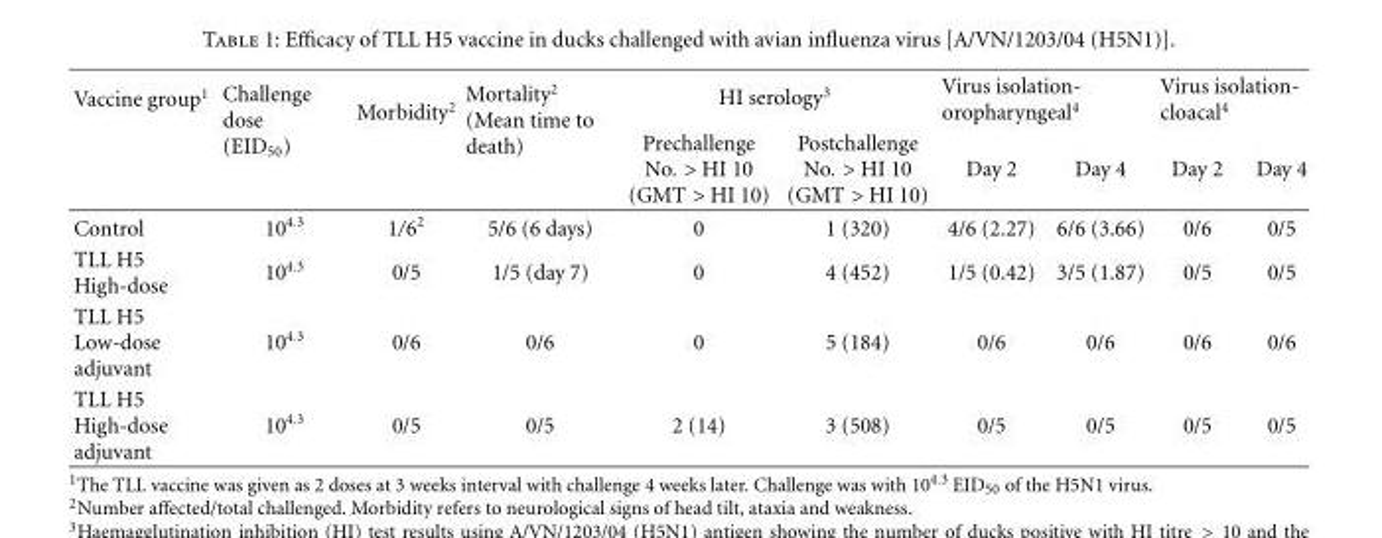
<table><thead><tr><td rowspan="2">Vaccine group<sup>1</sup></td><td rowspan="2">Challenge dose (EID<sub>50</sub>)</td><td rowspan="2">Morbidity<sup>2</sup></td><td rowspan="2">Mortality<sup>2</sup> (Mean time to death)</td><td colspan="2">HI serology<sup>3</sup></td><td colspan="2">Virus isolation- oropharyngeal<sup>4</sup></td><td colspan="2">Virus isolation- cloacal<sup>4</sup></td></tr><tr><td>Prechallenge No. &gt; HI 10 (GMT &gt; HI 10)</td><td>Postchallenge No. &gt; HI 10 (GMT &gt; HI 10)</td><td>Day 2</td><td>Day 4</td><td>Day 2</td><td>Day 4</td></tr></thead><tbody><tr><td>Control</td><td>10<sup>4.3</sup></td><td>1/6<sup>2</sup></td><td>5/6 (6 days)</td><td>0</td><td>1 (320)</td><td>4/6 (2.27)</td><td>6/6 (3.66)</td><td>0/6</td><td>0/5</td></tr><tr><td>TLL H5 High-dose</td><td>10<sup>4.3</sup></td><td>0/5</td><td>1/5 (day 7)</td><td>0</td><td>4 (452)</td><td>1/5 (0.42)</td><td>3/5 (1.87)</td><td>0/5</td><td>0/5</td></tr><tr><td>TLL H5 Low-dose adjuvant</td><td>10<sup>4.3</sup></td><td>0/6</td><td>0/6</td><td>0</td><td>5 (184)</td><td>0/6</td><td>0/6</td><td>0/6</td><td>0/6</td></tr><tr><td>TLL H5 High-dose adjuvant</td><td>10<sup>4.3</sup></td><td>0/5</td><td>0/5</td><td>2 (14)</td><td>3 (508)</td><td>0/5</td><td>0/5</td><td>0/5</td><td>0/5</td></tr></tbody></table>